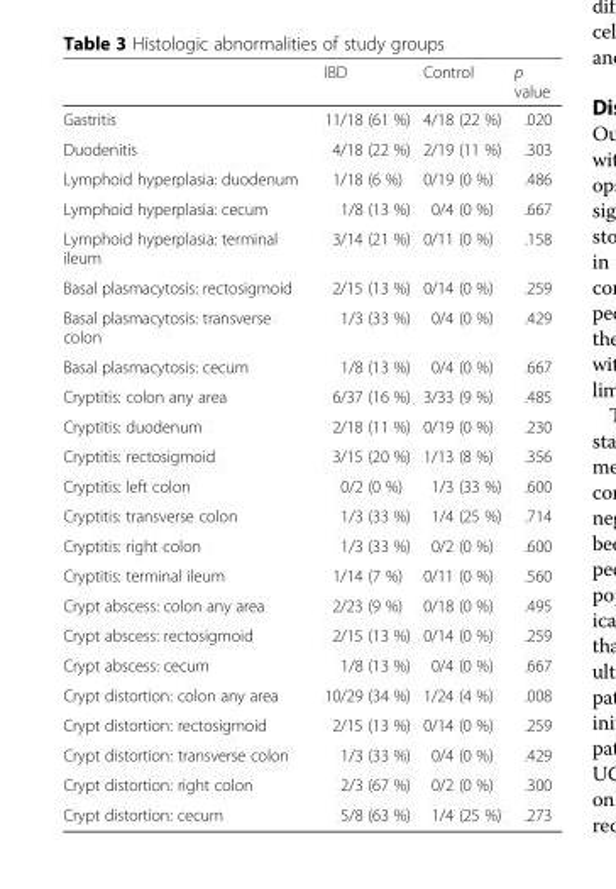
<table><thead><tr><td></td><td>IBD</td><td>Control</td><td>p value</td></tr></thead><tbody><tr><td>Gastritis</td><td>11/18 (61 %)</td><td>4/18 (22 %)</td><td>.020</td></tr><tr><td>Duodenitis</td><td>4/18 (22 %)</td><td>2/19 (11 %)</td><td>.303</td></tr><tr><td>Lymphoid hyperplasia: duodenum</td><td>1/18 (6 %)</td><td>0/19 (0 %)</td><td>.486</td></tr><tr><td>Lymphoid hyperplasia: cecum</td><td>1/8 (13 %)</td><td>0/4 (0 %)</td><td>.667</td></tr><tr><td>Lymphoid hyperplasia: terminal ileum</td><td>3/14 (21 %)</td><td>0/11 (0 %)</td><td>.158</td></tr><tr><td>Basal plasmacytosis: rectosigmoid</td><td>2/15 (13 %)</td><td>0/14 (0 %)</td><td>.259</td></tr><tr><td>Basal plasmacytosis: transverse colon</td><td>1/3 (33 %)</td><td>0/4 (0 %)</td><td>.429</td></tr><tr><td>Basal plasmacytosis: cecum</td><td>1/8 (13 %)</td><td>0/4 (0 %)</td><td>.667</td></tr><tr><td>Cryptitis: colon any area</td><td>6/37 (16 %)</td><td>3/33 (9 %)</td><td>.485</td></tr><tr><td>Cryptitis: duodenum</td><td>2/18 (11 %)</td><td>0/19 (0 %)</td><td>.230</td></tr><tr><td>Cryptitis: rectosigmoid</td><td>3/15 (20 %)</td><td>1/13 (8 %)</td><td>.356</td></tr><tr><td>Cryptitis: left colon</td><td>0/2 (0 %)</td><td>1/3 (33 %)</td><td>.600</td></tr><tr><td>Cryptitis: transverse colon</td><td>1/3 (33 %)</td><td>1/4 (25 %)</td><td>.714</td></tr><tr><td>Cryptitis: right colon</td><td>1/3 (33 %)</td><td>0/2 (0 %)</td><td>.600</td></tr><tr><td>Cryptitis: terminal ileum</td><td>1/14 (7 %)</td><td>0/11 (0 %)</td><td>.560</td></tr><tr><td>Crypt abscess: colon any area</td><td>2/23 (9 %)</td><td>0/18 (0 %)</td><td>.495</td></tr><tr><td>Crypt abscess: rectosigmoid</td><td>2/15 (13 %)</td><td>0/14 (0 %)</td><td>.259</td></tr><tr><td>Crypt abscess: cecum</td><td>1/8 (13 %)</td><td>0/4 (0 %)</td><td>.667</td></tr><tr><td>Crypt distortion: colon any area</td><td>10/29 (34 %)</td><td>1/24 (4 %)</td><td>.008</td></tr><tr><td>Crypt distortion: rectosigmoid</td><td>2/15 (13 %)</td><td>0/14 (0 %)</td><td>.259</td></tr><tr><td>Crypt distortion: transverse colon</td><td>1/3 (33 %)</td><td>0/4 (0 %)</td><td>.429</td></tr><tr><td>Crypt distortion: right colon</td><td>2/3 (67 %)</td><td>0/2 (0 %)</td><td>.300</td></tr><tr><td>Crypt distortion: cecum</td><td>5/8 (63 %)</td><td>1/4 (25 %)</td><td>.273</td></tr></tbody></table>